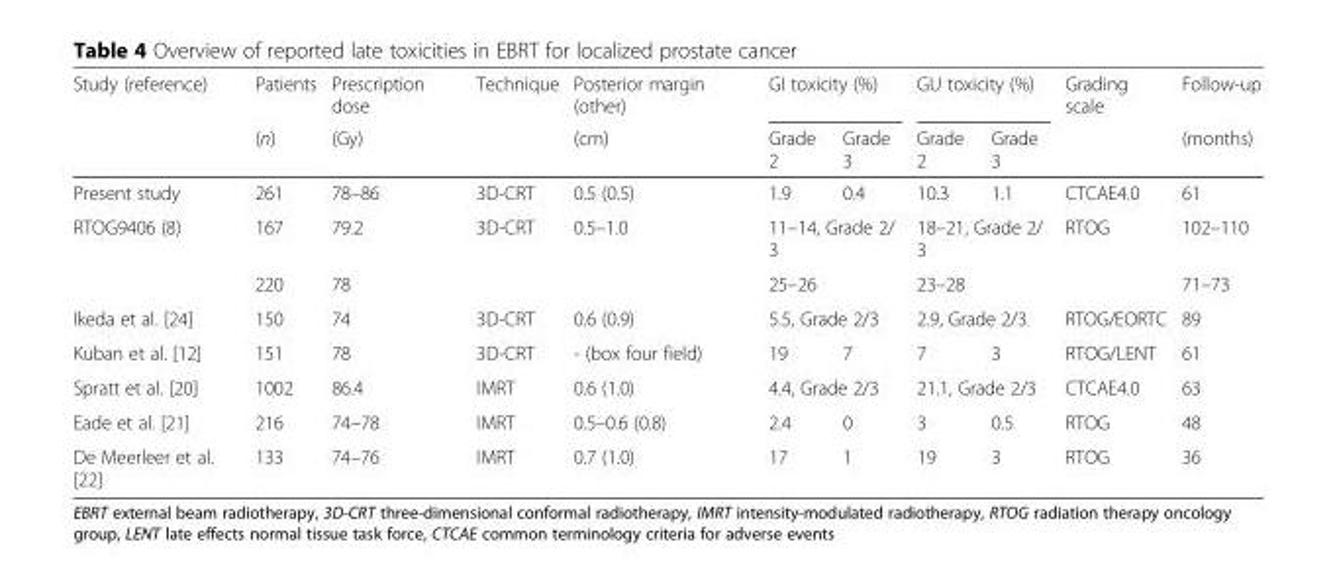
<table><thead><tr><td rowspan="2">Study (reference)</td><td rowspan="2">Patients (n)</td><td rowspan="2">Prescription dose (Gy)</td><td rowspan="2">Technique</td><td rowspan="2">Posterior margin (other) (cm)</td><td colspan="2">GI toxicity (%)</td><td colspan="2">GU toxicity (%)</td><td rowspan="2">Grading scale</td><td rowspan="2">Follow-up (months)</td></tr><tr><td>Grade 2</td><td>Grade 3</td><td>Grade 2</td><td>Grade 3</td></tr></thead><tbody><tr><td>Present study</td><td>261</td><td>78–86</td><td>3D-CRT</td><td>0.5 (0.5)</td><td>1.9</td><td>0.4</td><td>10.3</td><td>1.1</td><td>CTCAE4.0</td><td>61</td></tr><tr><td rowspan="2">RTOG9406 (8)</td><td>167</td><td>79.2</td><td>3D-CRT</td><td>0.5–1.0</td><td colspan="2">11–14, Grade 2/ 3</td><td colspan="2">18–21, Grade 2/ 3</td><td>RTOG</td><td>102–110</td></tr><tr><td>220</td><td>78</td><td></td><td></td><td>25–26</td><td></td><td>23–28</td><td></td><td></td><td>71–73</td></tr><tr><td>Ikeda et al. [24]</td><td>150</td><td>74</td><td>3D-CRT</td><td>0.6 (0.9)</td><td colspan="2">5.5, Grade 2/3</td><td colspan="2">2.9, Grade 2/3</td><td>RTOG/EORTC</td><td>89</td></tr><tr><td>Kuban et al. [12]</td><td>151</td><td>78</td><td>3D-CRT</td><td>- (box four field)</td><td>19</td><td>7</td><td>7</td><td>3</td><td>RTOG/LENT</td><td>61</td></tr><tr><td>Spratt et al. [20]</td><td>1002</td><td>86.4</td><td>IMRT</td><td>0.6 (1.0)</td><td colspan="2">4.4, Grade 2/3</td><td colspan="2">21.1, Grade 2/3</td><td>CTCAE4.0</td><td>63</td></tr><tr><td>Eade et al. [21]</td><td>216</td><td>74–78</td><td>IMRT</td><td>0.5–0.6 (0.8)</td><td>2.4</td><td>0</td><td>3</td><td>0.5</td><td>RTOG</td><td>48</td></tr><tr><td>De Meerleer et al. [22]</td><td>133</td><td>74–76</td><td>IMRT</td><td>0.7 (1.0)</td><td>17</td><td>1</td><td>19</td><td>3</td><td>RTOG</td><td>36</td></tr></tbody></table>